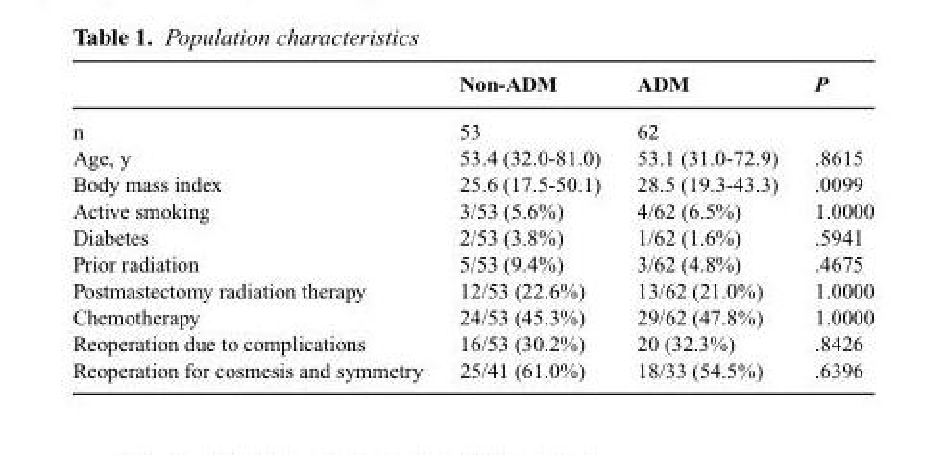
<table><thead><tr><td></td><td>Non-ADM</td><td>ADM</td><td>P</td></tr></thead><tbody><tr><td>n</td><td>53</td><td>62</td><td></td></tr><tr><td>Age, y</td><td>53.4 (32.0-81.0)</td><td>53.1 (31.0-72.9)</td><td>.8615</td></tr><tr><td>Body mass index</td><td>25.6 (17.5-50.1)</td><td>28.5 (19.3-43.3)</td><td>.0099</td></tr><tr><td>Active smoking</td><td>3/53 (5.6%)</td><td>4/62 (6.5%)</td><td>1.0000</td></tr><tr><td>Diabetes</td><td>2/53 (3.8%)</td><td>1/62 (1.6%)</td><td>.5941</td></tr><tr><td>Prior radiation</td><td>5/53 (9.4%)</td><td>3/62 (4.8%)</td><td>.4675</td></tr><tr><td>Postmastectomy radiation therapy</td><td>12/53 (22.6%)</td><td>13/62 (21.0%)</td><td>1.0000</td></tr><tr><td>Chemotherapy</td><td>24/53 (45.3%)</td><td>29/62 (47.8%)</td><td>1.0000</td></tr><tr><td>Reoperation due to complications</td><td>16/53 (30.2%)</td><td>20 (32.3%)</td><td>.8426</td></tr><tr><td>Reoperation for cosmesis and symmetry</td><td>25/41 (61.0%)</td><td>18/33 (54.5%)</td><td>.6396</td></tr></tbody></table>